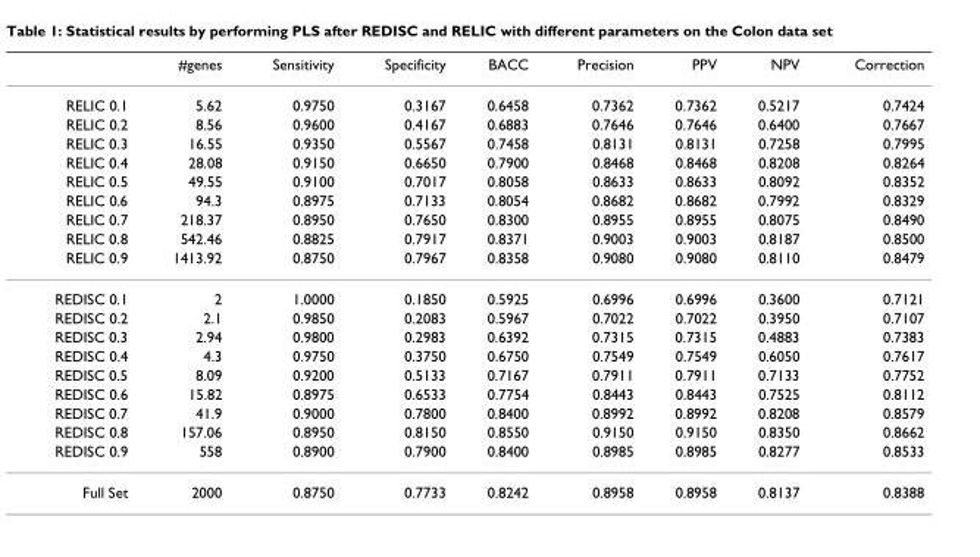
<table><thead><tr><td></td><td>#genes</td><td>Sensitivity</td><td>Specificity</td><td>BACC</td><td>Precision</td><td>PPV</td><td>NPV</td><td>Correction</td></tr></thead><tbody><tr><td>RELIC 0.1</td><td>5.62</td><td>0.9750</td><td>0.3167</td><td>0.6458</td><td>0.7362</td><td>0.7362</td><td>0.5217</td><td>0.7424</td></tr><tr><td>RELIC 0.2</td><td>8.56</td><td>0.9600</td><td>0.4167</td><td>0.6883</td><td>0.7646</td><td>0.7646</td><td>0.6400</td><td>0.7667</td></tr><tr><td>RELIC 0.3</td><td>16.55</td><td>0.9350</td><td>0.5567</td><td>0.7458</td><td>0.8131</td><td>0.8131</td><td>0.7258</td><td>0.7995</td></tr><tr><td>RELIC 0.4</td><td>28.08</td><td>0.9150</td><td>0.6650</td><td>0.7900</td><td>0.8468</td><td>0.8468</td><td>0.8208</td><td>0.8264</td></tr><tr><td>RELIC 0.5</td><td>49.55</td><td>0.9100</td><td>0.7017</td><td>0.8058</td><td>0.8633</td><td>0.8633</td><td>0.8092</td><td>0.8352</td></tr><tr><td>RELIC 0.6</td><td>94.3</td><td>0.8975</td><td>0.7133</td><td>0.8054</td><td>0.8682</td><td>0.8682</td><td>0.7992</td><td>0.8329</td></tr><tr><td>RELIC 0.7</td><td>218.37</td><td>0.8950</td><td>0.7650</td><td>0.8300</td><td>0.8955</td><td>0.8955</td><td>0.8075</td><td>0.8490</td></tr><tr><td>RELIC 0.8</td><td>542.46</td><td>0.8825</td><td>0.7917</td><td>0.8371</td><td>0.9003</td><td>0.9003</td><td>0.8187</td><td>0.8500</td></tr><tr><td>RELIC 0.9</td><td>1413.92</td><td>0.8750</td><td>0.7967</td><td>0.8358</td><td>0.9080</td><td>0.9080</td><td>0.8110</td><td>0.8479</td></tr><tr><td>REDISC 0.1</td><td>2</td><td>1.0000</td><td>0.1850</td><td>0.5925</td><td>0.6996</td><td>0.6996</td><td>0.3600</td><td>0.7121</td></tr><tr><td>REDISC 0.2</td><td>2.1</td><td>0.9850</td><td>0.2083</td><td>0.5967</td><td>0.7022</td><td>0.7022</td><td>0.3950</td><td>0.7107</td></tr><tr><td>REDISC 0.3</td><td>2.94</td><td>0.9800</td><td>0.2983</td><td>0.6392</td><td>0.7315</td><td>0.7315</td><td>0.4883</td><td>0.7383</td></tr><tr><td>REDISC 0.4</td><td>4.3</td><td>0.9750</td><td>0.3750</td><td>0.6750</td><td>0.7549</td><td>0.7549</td><td>0.6050</td><td>0.7617</td></tr><tr><td>REDISC 0.5</td><td>8.09</td><td>0.9200</td><td>0.5133</td><td>0.7167</td><td>0.7911</td><td>0.7911</td><td>0.7133</td><td>0.7752</td></tr><tr><td>REDISC 0.6</td><td>15.82</td><td>0.8975</td><td>0.6533</td><td>0.7754</td><td>0.8443</td><td>0.8443</td><td>0.7525</td><td>0.8112</td></tr><tr><td>REDISC 0.7</td><td>41.9</td><td>0.9000</td><td>0.7800</td><td>0.8400</td><td>0.8992</td><td>0.8992</td><td>0.8208</td><td>0.8579</td></tr><tr><td>REDISC 0.8</td><td>157.06</td><td>0.8950</td><td>0.8150</td><td>0.8550</td><td>0.9150</td><td>0.9150</td><td>0.8350</td><td>0.8662</td></tr><tr><td>REDISC 0.9</td><td>558</td><td>0.8900</td><td>0.7900</td><td>0.8400</td><td>0.8985</td><td>0.8985</td><td>0.8277</td><td>0.8533</td></tr><tr><td>Full Set</td><td>2000</td><td>0.8750</td><td>0.7733</td><td>0.8242</td><td>0.8958</td><td>0.8958</td><td>0.8137</td><td>0.8388</td></tr></tbody></table>